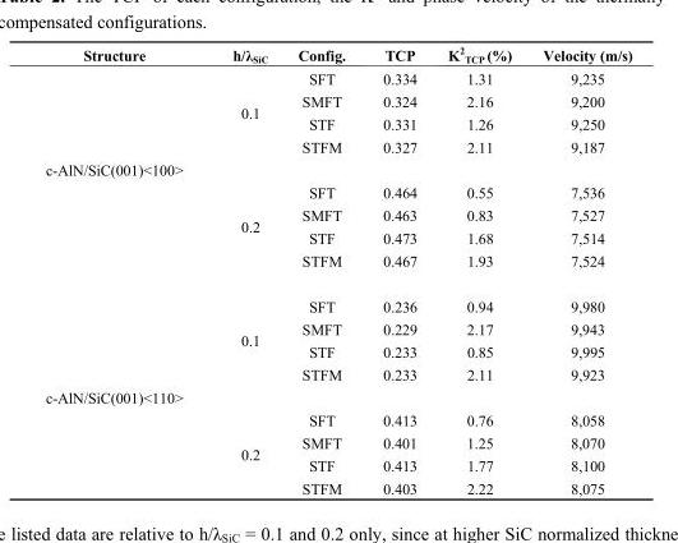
<table><thead><tr><td>Structure</td><td>h/λ<sub>SiC</sub></td><td>Config.</td><td>TCP</td><td>K<sup>2</sup> <sub>TCP</sub> (%)</td><td>Velocity (m/s)</td></tr></thead><tbody><tr><td rowspan="8">c-AlN/SiC(001)&lt;100&gt;</td><td rowspan="4">0.1</td><td>SFT</td><td>0.334</td><td>1.31</td><td>9,235</td></tr><tr><td>SMFT</td><td>0.324</td><td>2.16</td><td>9,200</td></tr><tr><td>STF</td><td>0.331</td><td>1.26</td><td>9,250</td></tr><tr><td>STFM</td><td>0.327</td><td>2.11</td><td>9,187</td></tr><tr><td rowspan="4">0.2</td><td>SFT</td><td>0.464</td><td>0.55</td><td>7,536</td></tr><tr><td>SMFT</td><td>0.463</td><td>0.83</td><td>7,527</td></tr><tr><td>STF</td><td>0.473</td><td>1.68</td><td>7,514</td></tr><tr><td>STFM</td><td>0.467</td><td>1.93</td><td>7,524</td></tr><tr><td rowspan="8">c-AlN/SiC(001)&lt;110&gt;</td><td rowspan="4">0.1</td><td>SFT</td><td>0.236</td><td>0.94</td><td>9,980</td></tr><tr><td>SMFT</td><td>0.229</td><td>2.17</td><td>9,943</td></tr><tr><td>STF</td><td>0.233</td><td>0.85</td><td>9,995</td></tr><tr><td>STFM</td><td>0.233</td><td>2.11</td><td>9,923</td></tr><tr><td rowspan="4">0.2</td><td>SFT</td><td>0.413</td><td>0.76</td><td>8,058</td></tr><tr><td>SMFT</td><td>0.401</td><td>1.25</td><td>8,070</td></tr><tr><td>STF</td><td>0.413</td><td>1.77</td><td>8,100</td></tr><tr><td>STFM</td><td>0.403</td><td>2.22</td><td>8,075</td></tr></tbody></table>